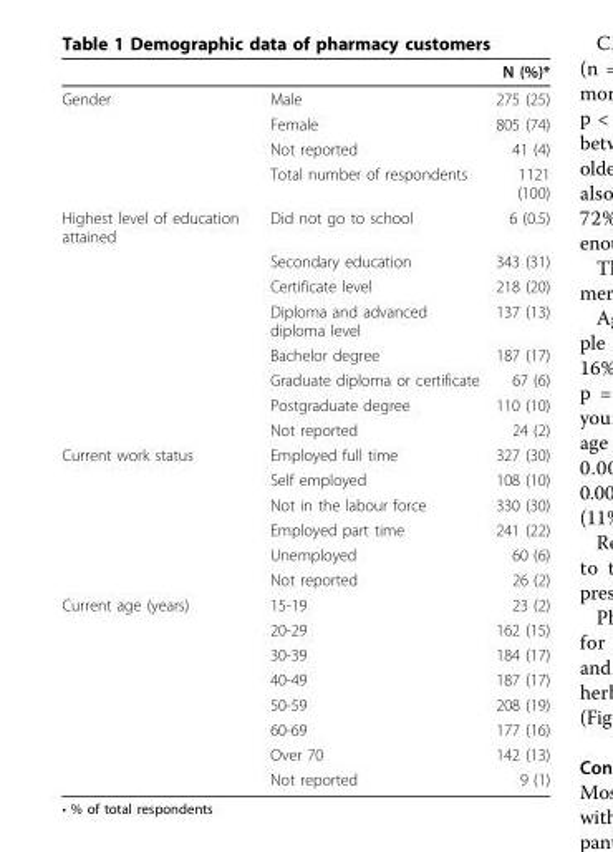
<table><thead><tr><td></td><td></td><td>N (%)*</td></tr></thead><tbody><tr><td rowspan="4">Gender</td><td>Male</td><td>275 (25)</td></tr><tr><td>Female</td><td>805 (74)</td></tr><tr><td>Not reported</td><td>41 (4)</td></tr><tr><td>Total number of respondents</td><td>1121 (100)</td></tr><tr><td rowspan="8">Highest level of education attained</td><td>Did not go to school</td><td>6 (0.5)</td></tr><tr><td>Secondary education</td><td>343 (31)</td></tr><tr><td>Certificate level</td><td>218 (20)</td></tr><tr><td>Diploma and advanced diploma level</td><td>137 (13)</td></tr><tr><td>Bachelor degree</td><td>187 (17)</td></tr><tr><td>Graduate diploma or certificate</td><td>67 (6)</td></tr><tr><td>Postgraduate degree</td><td>110 (10)</td></tr><tr><td>Not reported</td><td>24 (2)</td></tr><tr><td rowspan="6">Current work status</td><td>Employed full time</td><td>327 (30)</td></tr><tr><td>Self employed</td><td>108 (10)</td></tr><tr><td>Not in the labour force</td><td>330 (30)</td></tr><tr><td>Employed part time</td><td>241 (22)</td></tr><tr><td>Unemployed</td><td>60 (6)</td></tr><tr><td>Not reported</td><td>26 (2)</td></tr><tr><td rowspan="8">Current age (years)</td><td>15-19</td><td>23 (2)</td></tr><tr><td>20-29</td><td>162 (15)</td></tr><tr><td>30-39</td><td>184 (17)</td></tr><tr><td>40-49</td><td>187 (17)</td></tr><tr><td>50-59</td><td>208 (19)</td></tr><tr><td>60-69</td><td>177 (16)</td></tr><tr><td>Over 70</td><td>142 (13)</td></tr><tr><td>Not reported</td><td>9 (1)</td></tr></tbody></table>